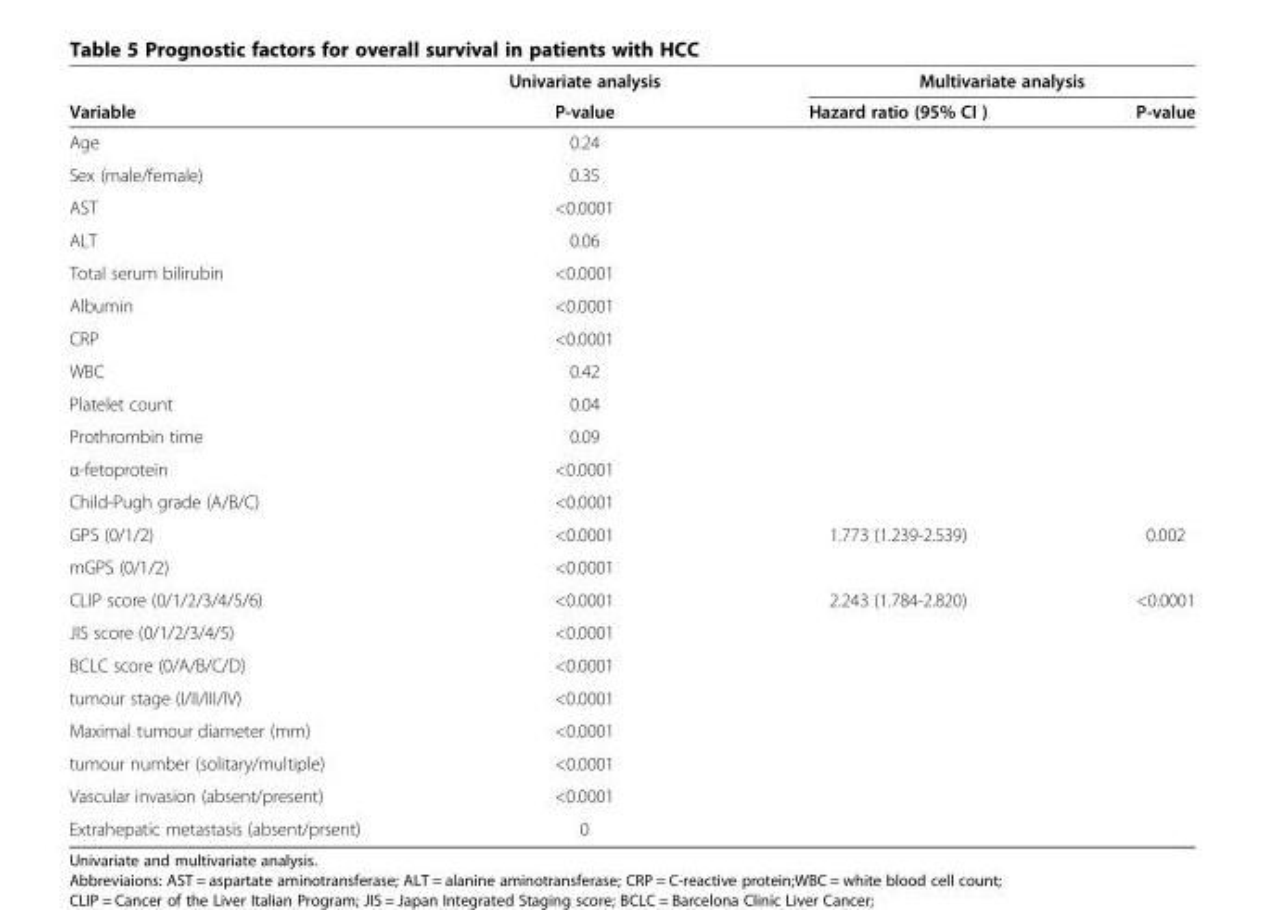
<table><thead><tr><td rowspan="2">Variable</td><td rowspan="2">Univariate analysis P-value</td><td colspan="2">Multivariate analysis</td></tr><tr><td>Hazard ratio (95% CI )</td><td>P-value</td></tr></thead><tbody><tr><td>Age</td><td>0.24</td><td></td><td></td></tr><tr><td>Sex (male/female)</td><td>0.35</td><td></td><td></td></tr><tr><td>AST</td><td>&lt;0.0001</td><td></td><td></td></tr><tr><td>ALT</td><td>0.06</td><td></td><td></td></tr><tr><td>Total serum bilirubin</td><td>&lt;0.0001</td><td></td><td></td></tr><tr><td>Albumin</td><td>&lt;0.0001</td><td></td><td></td></tr><tr><td>CRP</td><td>&lt;0.0001</td><td></td><td></td></tr><tr><td>WBC</td><td>0.42</td><td></td><td></td></tr><tr><td>Platelet count</td><td>0.04</td><td></td><td></td></tr><tr><td>Prothrombin time</td><td>0.09</td><td></td><td></td></tr><tr><td>α-fetoprotein</td><td>&lt;0.0001</td><td></td><td></td></tr><tr><td>Child-Pugh grade (A/B/C)</td><td>&lt;0.0001</td><td></td><td></td></tr><tr><td>GPS (0/1/2)</td><td>&lt;0.0001</td><td>1.773 (1.239-2.539)</td><td>0.002</td></tr><tr><td>mGPS (0/1/2)</td><td>&lt;0.0001</td><td></td><td></td></tr><tr><td>CLIP score (0/1/2/3/4/5/6)</td><td>&lt;0.0001</td><td>2.243 (1.784-2.820)</td><td>&lt;0.0001</td></tr><tr><td>JIS score (0/1/2/3/4/5)</td><td>&lt;0.0001</td><td colspan="2"></td></tr><tr><td>BCLC score (0/A/B/C/D)</td><td>&lt;0.0001</td><td colspan="2"></td></tr><tr><td>tumour stage (І/ІІ/ІІІ/ІV)</td><td>&lt;0.0001</td><td colspan="2"></td></tr><tr><td>Maximal tumour diameter (mm)</td><td>&lt;0.0001</td><td colspan="2"></td></tr><tr><td>tumour number (solitary/multiple)</td><td>&lt;0.0001</td><td colspan="2"></td></tr><tr><td>Vascular invasion (absent/present)</td><td>&lt;0.0001</td><td colspan="2"></td></tr><tr><td>Extrahepatic metastasis (absent/prsent)</td><td>0</td><td colspan="2"></td></tr></tbody></table>